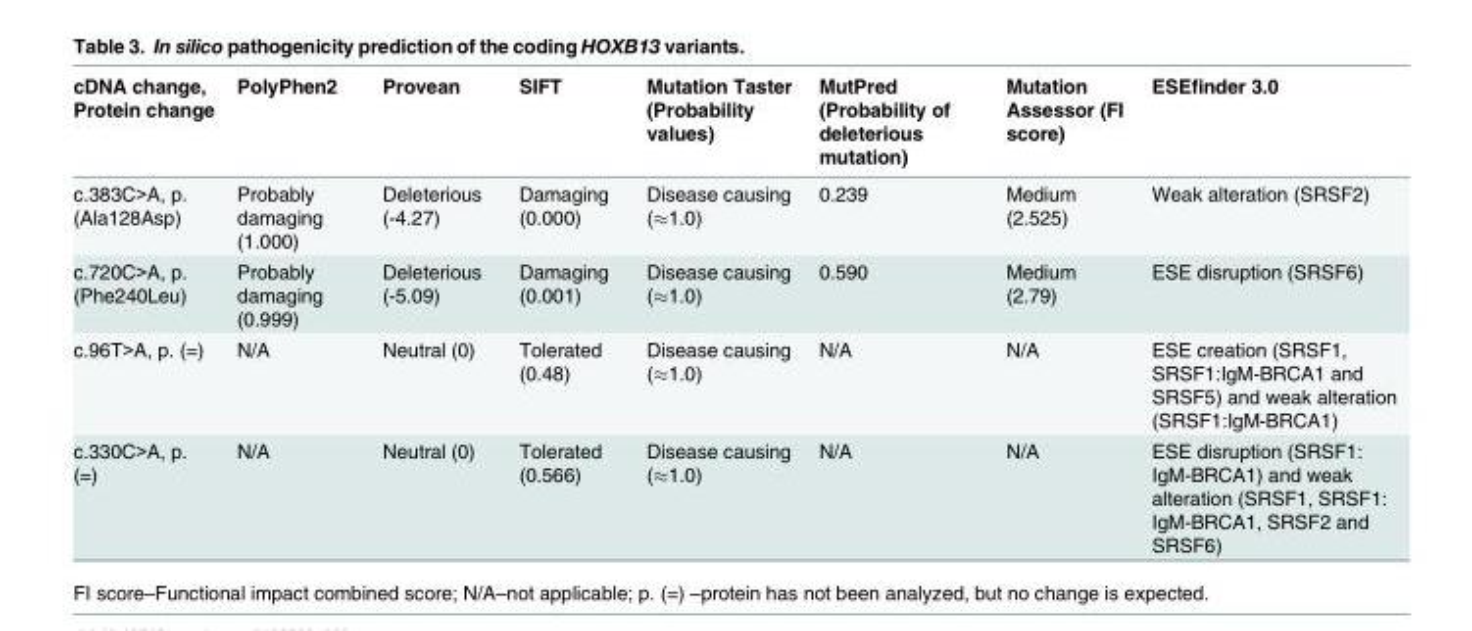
<table><thead><tr><td>cDNA change, Protein change</td><td>PolyPhen2</td><td>Provean</td><td>SIFT</td><td>Mutation Taster (Probability values)</td><td>MutPred (Probability of deleterious mutation)</td><td>Mutation Assessor (FI score)</td><td>ESEfinder 3.0</td></tr></thead><tbody><tr><td>c.383C&gt;A, p. (Ala128Asp)</td><td>Probably damaging (1.000)</td><td>Deleterious (-4.27)</td><td>Damaging (0.000)</td><td>Disease causing (≈1.0)</td><td>0.239</td><td>Medium (2.525)</td><td>Weak alteration (SRSF2)</td></tr><tr><td>c.720C&gt;A, p. (Phe240Leu)</td><td>Probably damaging (0.999)</td><td>Deleterious (-5.09)</td><td>Damaging (0.001)</td><td>Disease causing (≈1.0)</td><td>0.590</td><td>Medium (2.79)</td><td>ESE disruption (SRSF6)</td></tr><tr><td>c.96T&gt;A, p. (=)</td><td>N/A</td><td>Neutral (0)</td><td>Tolerated (0.48)</td><td>Disease causing (≈1.0)</td><td>N/A</td><td>N/A</td><td>ESE creation (SRSF1, SRSF1:IgM-BRCA1 and SRSF5) and weak alteration (SRSF1:IgM-BRCA1)</td></tr><tr><td>c.330C&gt;A, p. (=)</td><td>N/A</td><td>Neutral (0)</td><td>Tolerated (0.566)</td><td>Disease causing (≈1.0)</td><td>N/A</td><td>N/A</td><td>ESE disruption (SRSF1: IgM-BRCA1) and weak alteration (SRSF1, SRSF1: IgM-BRCA1, SRSF2 and SRSF6)</td></tr></tbody></table>